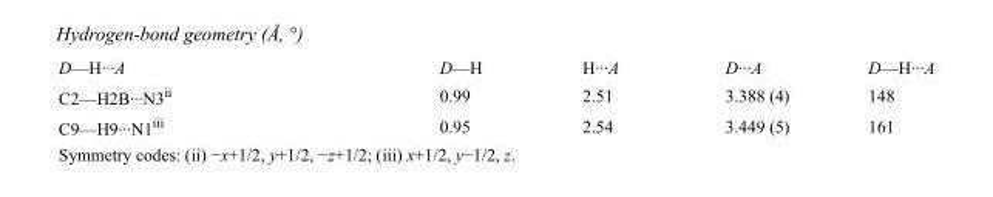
<table><tbody><tr><td>D—H···A</td><td>D—H</td><td>H···A</td><td>D···A</td><td>D—H···A</td></tr><tr><td>C2—H2B···N3<sup>ii</sup></td><td>0.99</td><td>2.51</td><td>3.388 (4)</td><td>148</td></tr><tr><td>C9—H9···N1<sup>iii</sup></td><td>0.95</td><td>2.54</td><td>3.449 (5)</td><td>161</td></tr></tbody></table>